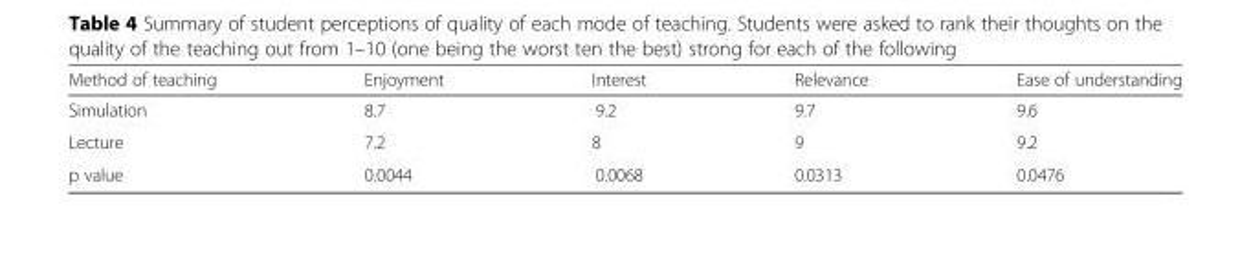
<table><thead><tr><td>Method of teaching</td><td>Enjoyment</td><td>Interest</td><td>Relevance</td><td>Ease of understanding</td></tr></thead><tbody><tr><td>Simulation</td><td>8.7</td><td>9.2</td><td>9.7</td><td>9.6</td></tr><tr><td>Lecture</td><td>7.2</td><td>8</td><td>9</td><td>9.2</td></tr><tr><td>p value</td><td>0.0044</td><td>0.0068</td><td>0.0313</td><td>0.0476</td></tr></tbody></table>